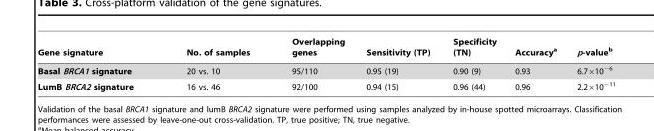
<table><thead><tr><td>Gene signature</td><td>No. of samples</td><td>Overlapping genes</td><td>Sensitivity (TP)</td><td>Specificity (TN)</td><td>Accuracy<sup>a</sup></td><td>p-value<sup>b</sup></td></tr></thead><tbody><tr><td>Basal BRCA1 signature</td><td>20 vs. 10</td><td>95/110</td><td>0.95 (19)</td><td>0.90 (9)</td><td>0.93</td><td>6.7×10<sup>−6</sup></td></tr><tr><td>LumB BRCA2 signature</td><td>16 vs. 46</td><td>92/100</td><td>0.94 (15)</td><td>0.96 (44)</td><td>0.96</td><td>2.2×10<sup>−11</sup></td></tr></tbody></table>